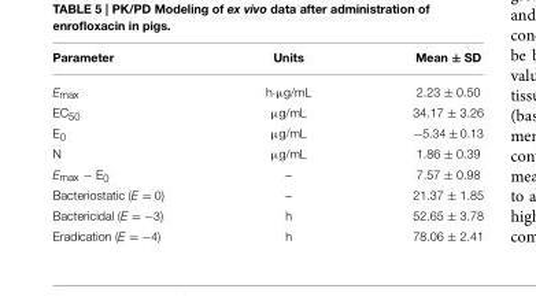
<table><thead><tr><td>Parameter</td><td>Units</td><td>Mean ± SD</td></tr></thead><tbody><tr><td>E<sub>max</sub></td><td>h·µg/mL</td><td>2.23 ± 0.50</td></tr><tr><td>EC<sub>50</sub></td><td>µg/mL</td><td>34.17 ± 3.26</td></tr><tr><td>E<sub>0</sub></td><td>µg/mL</td><td>−5.34 ± 0.13</td></tr><tr><td>N</td><td>µg/mL</td><td>1.86 ± 0.39</td></tr><tr><td>E<sub>max</sub> − E<sub>0</sub></td><td>–</td><td>7.57 ± 0.98</td></tr><tr><td>Bacteriostatic (E = 0)</td><td>–</td><td>21.37 ± 1.85</td></tr><tr><td>Bactericidal (E = −3)</td><td>h</td><td>52.65 ± 3.78</td></tr><tr><td>Eradication (E = −4)</td><td>h</td><td>78.06 ± 2.41</td></tr></tbody></table>